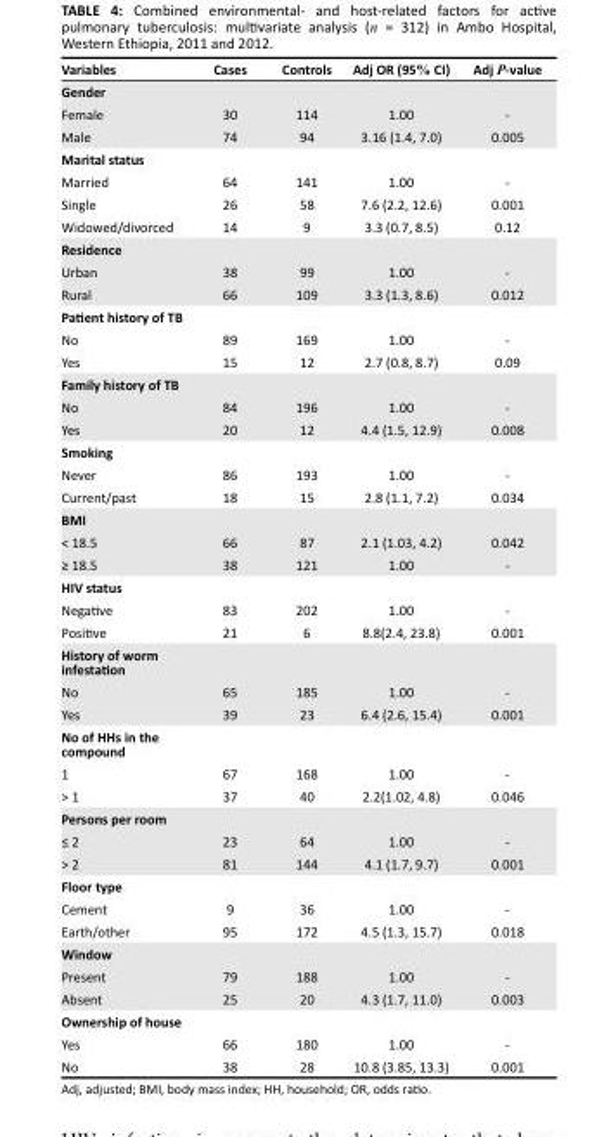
<table><thead><tr><td>Variables</td><td>Cases</td><td>Controls</td><td>Adj OR (95% CI)</td><td>Adj P-value</td></tr></thead><tbody><tr><td colspan="5">Gender</td></tr><tr><td>Female</td><td>30</td><td>114</td><td>1.00</td><td>-</td></tr><tr><td>Male</td><td>74</td><td>94</td><td>3.16 (1.4, 7.0)</td><td>0.005</td></tr><tr><td colspan="5">Marital status</td></tr><tr><td>Married</td><td>64</td><td>141</td><td>1.00</td><td>-</td></tr><tr><td>Single</td><td>26</td><td>58</td><td>7.6 (2.2, 12.6)</td><td>0.001</td></tr><tr><td>Widowed/divorced</td><td>14</td><td>9</td><td>3.3 (0.7, 8.5)</td><td>0.12</td></tr><tr><td colspan="5">Residence</td></tr><tr><td>Urban</td><td>38</td><td>99</td><td>1.00</td><td>-</td></tr><tr><td>Rural</td><td>66</td><td>109</td><td>3.3 (1.3, 8.6)</td><td>0.012</td></tr><tr><td colspan="5">Patient history of TB</td></tr><tr><td>No</td><td>89</td><td>169</td><td>1.00</td><td>-</td></tr><tr><td>Yes</td><td>15</td><td>12</td><td>2.7 (0.8, 8.7)</td><td>0.09</td></tr><tr><td colspan="5">Family history of TB</td></tr><tr><td>No</td><td>84</td><td>196</td><td>1.00</td><td>-</td></tr><tr><td>Yes</td><td>20</td><td>12</td><td>4.4 (1.5, 12.9)</td><td>0.008</td></tr><tr><td colspan="5">Smoking</td></tr><tr><td>Never</td><td>86</td><td>193</td><td>1.00</td><td>-</td></tr><tr><td>Current/past</td><td>18</td><td>15</td><td>2.8 (1.1, 7.2)</td><td>0.034</td></tr><tr><td colspan="5">BMI</td></tr><tr><td>&lt; 18.5</td><td>66</td><td>87</td><td>2.1 (1.03, 4.2)</td><td>0.042</td></tr><tr><td>≥ 18.5</td><td>38</td><td>121</td><td>1.00</td><td>-</td></tr><tr><td colspan="5">HIV status</td></tr><tr><td>Negative</td><td>83</td><td>202</td><td>1.00</td><td>-</td></tr><tr><td>Positive</td><td>21</td><td>6</td><td>8.8(2.4, 23.8)</td><td>0.001</td></tr><tr><td colspan="5">History of worm infestation</td></tr><tr><td>No</td><td>65</td><td>185</td><td>1.00</td><td>-</td></tr><tr><td>Yes</td><td>39</td><td>23</td><td>6.4 (2.6, 15.4)</td><td>0.001</td></tr><tr><td colspan="5">No of HHs in the compound</td></tr><tr><td>1</td><td>67</td><td>168</td><td>1.00</td><td>-</td></tr><tr><td>&gt; 1</td><td>37</td><td>40</td><td>2.2(1.02, 4.8)</td><td>0.046</td></tr><tr><td colspan="5">Persons per room</td></tr><tr><td>≤ 2</td><td>23</td><td>64</td><td>1.00</td><td>-</td></tr><tr><td>&gt; 2</td><td>81</td><td>144</td><td>4.1 (1.7, 9.7)</td><td>0.001</td></tr><tr><td colspan="5">Floor type</td></tr><tr><td>Cement</td><td>9</td><td>36</td><td>1.00</td><td>-</td></tr><tr><td>Earth/other</td><td>95</td><td>172</td><td>4.5 (1.3, 15.7)</td><td>0.018</td></tr><tr><td colspan="5">Window</td></tr><tr><td>Present</td><td>79</td><td>188</td><td>1.00</td><td>-</td></tr><tr><td>Absent</td><td>25</td><td>20</td><td>4.3 (1.7, 11.0)</td><td>0.003</td></tr><tr><td colspan="5">Ownership of house</td></tr><tr><td>Yes</td><td>66</td><td>180</td><td>1.00</td><td>-</td></tr><tr><td>No</td><td>38</td><td>28</td><td>10.8 (3.85, 13.3)</td><td>0.001</td></tr></tbody></table>